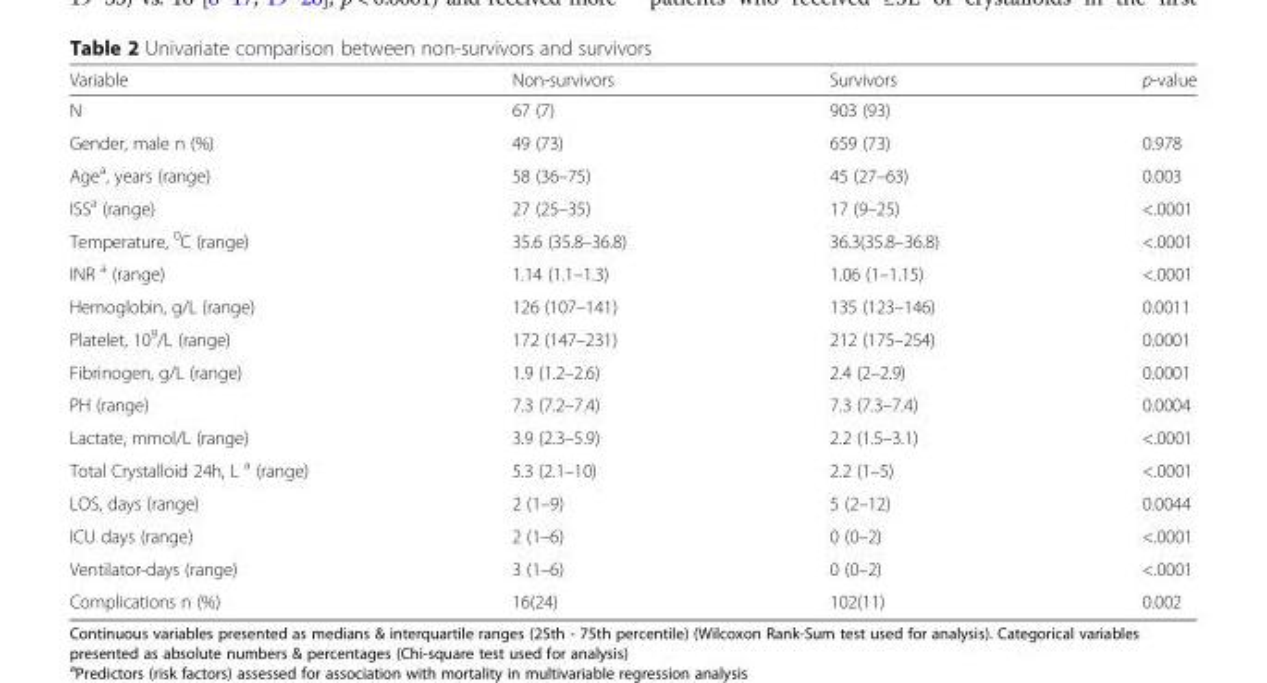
<table><thead><tr><td>Variable</td><td>Non-survivors</td><td>Survivors</td><td>p-value</td></tr></thead><tbody><tr><td>N</td><td>67 (7)</td><td>903 (93)</td><td></td></tr><tr><td>Gender, male n (%)</td><td>49 (73)</td><td>659 (73)</td><td>0.978</td></tr><tr><td>Age<sup>a</sup>, years (range)</td><td>58 (36–75)</td><td>45 (27–63)</td><td>0.003</td></tr><tr><td>ISS<sup>a</sup> (range)</td><td>27 (25–35)</td><td>17 (9–25)</td><td>&lt;.0001</td></tr><tr><td>Temperature, <sup>0</sup>C (range)</td><td>35.6 (35.8–36.8)</td><td>36.3(35.8–36.8)</td><td>&lt;.0001</td></tr><tr><td>INR <sup>a</sup> (range)</td><td>1.14 (1.1–1.3)</td><td>1.06 (1–1.15)</td><td>&lt;.0001</td></tr><tr><td>Hemoglobin, g/L (range)</td><td>126 (107–141)</td><td>135 (123–146)</td><td>0.0011</td></tr><tr><td>Platelet, 10<sup>9</sup>/L (range)</td><td>172 (147–231)</td><td>212 (175–254)</td><td>0.0001</td></tr><tr><td>Fibrinogen, g/L (range)</td><td>1.9 (1.2–2.6)</td><td>2.4 (2–2.9)</td><td>0.0001</td></tr><tr><td>PH (range)</td><td>7.3 (7.2–7.4)</td><td>7.3 (7.3–7.4)</td><td>0.0004</td></tr><tr><td>Lactate, mmol/L (range)</td><td>3.9 (2.3–5.9)</td><td>2.2 (1.5–3.1)</td><td>&lt;.0001</td></tr><tr><td>Total Crystalloid 24h, L <sup>a</sup> (range)</td><td>5.3 (2.1–10)</td><td>2.2 (1–5)</td><td>&lt;.0001</td></tr><tr><td>LOS, days (range)</td><td>2 (1–9)</td><td>5 (2–12)</td><td>0.0044</td></tr><tr><td>ICU days (range)</td><td>2 (1–6)</td><td>0 (0–2)</td><td>&lt;.0001</td></tr><tr><td>Ventilator-days (range)</td><td>3 (1–6)</td><td>0 (0–2)</td><td>&lt;.0001</td></tr><tr><td>Complications n (%)</td><td>16(24)</td><td>102(11)</td><td>0.002</td></tr></tbody></table>